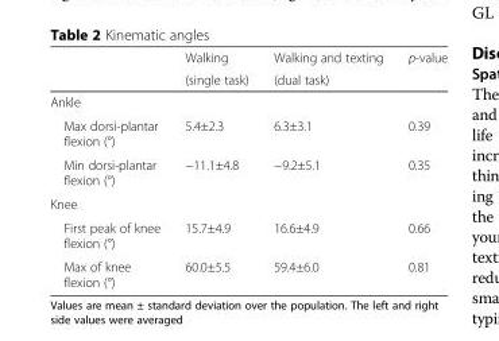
<table><thead><tr><td rowspan="2"></td><td rowspan="2">Walking (single task)</td><td rowspan="2">Walking and texting (dual task)</td><td rowspan="2">p-value</td></tr><tr></tr></thead><tbody><tr><td colspan="4">Ankle</td></tr><tr><td>Max dorsi-plantar flexion (°)</td><td>5.4±2.3</td><td>6.3±3.1</td><td>0.39</td></tr><tr><td>Min dorsi-plantar flexion (°)</td><td>−11.1±4.8</td><td>−9.2±5.1</td><td>0.35</td></tr><tr><td colspan="4">Knee</td></tr><tr><td>First peak of knee flexion (°)</td><td>15.7±4.9</td><td>16.6±4.9</td><td>0.66</td></tr><tr><td>Max of knee flexion (°)</td><td>60.0±5.5</td><td>59.4±6.0</td><td>0.81</td></tr></tbody></table>